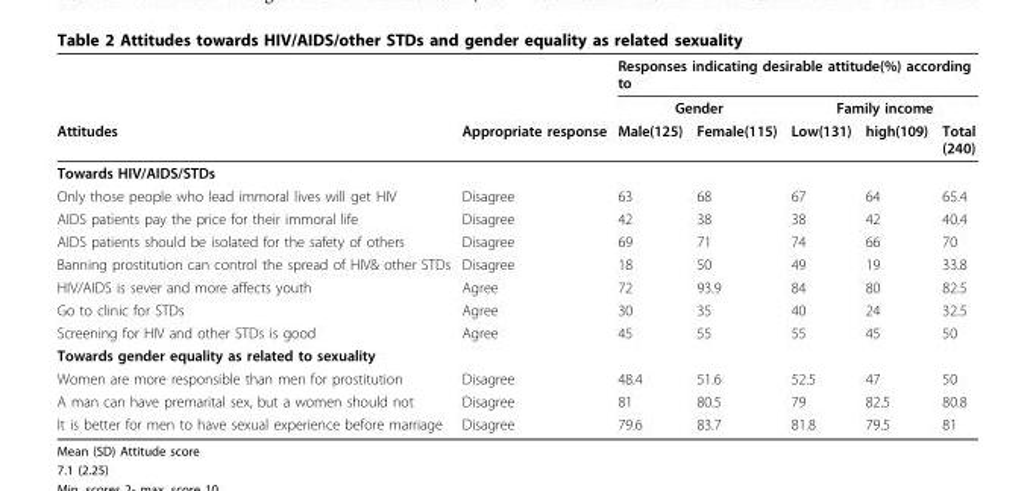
<table><thead><tr><td rowspan="3">Attitudes</td><td rowspan="3">Appropriate response</td><td colspan="5">Responses indicating desirable attitude(%) according to</td></tr><tr><td colspan="2">Gender</td><td colspan="3">Family income</td></tr><tr><td>Male(125)</td><td>Female(115)</td><td>Low(131)</td><td>high(109)</td><td>Total (240)</td></tr></thead><tbody><tr><td colspan="7">Towards HIV/AIDS/STDs</td></tr><tr><td>Only those people who lead immoral lives will get HIV</td><td>Disagree</td><td>63</td><td>68</td><td>67</td><td>64</td><td>65.4</td></tr><tr><td>AIDS patients pay the price for their immoral life</td><td>Disagree</td><td>42</td><td>38</td><td>38</td><td>42</td><td>40.4</td></tr><tr><td>AIDS patients should be isolated for the safety of others</td><td>Disagree</td><td>69</td><td>71</td><td>74</td><td>66</td><td>70</td></tr><tr><td>Banning prostitution can control the spread of HIV&amp; other STDs</td><td>Disagree</td><td>18</td><td>50</td><td>49</td><td>19</td><td>33.8</td></tr><tr><td>HIV/AIDS is sever and more affects youth</td><td>Agree</td><td>72</td><td>93.9</td><td>84</td><td>80</td><td>82.5</td></tr><tr><td>Go to clinic for STDs</td><td>Agree</td><td>30</td><td>35</td><td>40</td><td>24</td><td>32.5</td></tr><tr><td>Screening for HIV and other STDs is good</td><td>Agree</td><td>45</td><td>55</td><td>55</td><td>45</td><td>50</td></tr><tr><td colspan="7">Towards gender equality as related to sexuality</td></tr><tr><td>Women are more responsible than men for prostitution</td><td>Disagree</td><td>48.4</td><td>51.6</td><td>52.5</td><td>47</td><td>50</td></tr><tr><td>A man can have premarital sex, but a women should not</td><td>Disagree</td><td>81</td><td>80.5</td><td>79</td><td>82.5</td><td>80.8</td></tr><tr><td>It is better for men to have sexual experience before marriage</td><td>Disagree</td><td>79.6</td><td>83.7</td><td>81.8</td><td>79.5</td><td>81</td></tr></tbody></table>